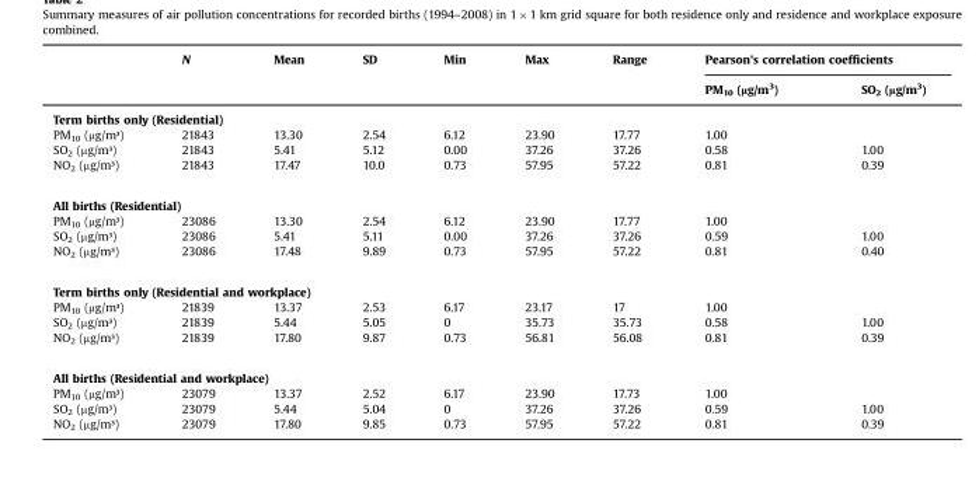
<table><thead><tr><td rowspan="2"></td><td rowspan="2">N</td><td rowspan="2">Mean</td><td rowspan="2">SD</td><td rowspan="2">Min</td><td rowspan="2">Max</td><td rowspan="2">Range</td><td colspan="2">Pearson&#x27;s correlation coefficients</td></tr><tr><td>PM<sub>10</sub> (µg/m<sup>3</sup>)</td><td>SO<sub>2</sub> (µg/m<sup>3</sup>)</td></tr></thead><tbody><tr><td colspan="9">Term births only (Residential)</td></tr><tr><td>PM<sub>10</sub> (µg/m³)</td><td>21843</td><td>13.30</td><td>2.54</td><td>6.12</td><td>23.90</td><td>17.77</td><td>1.00</td><td></td></tr><tr><td>SO<sub>2</sub> (µg/m³)</td><td>21843</td><td>5.41</td><td>5.12</td><td>0.00</td><td>37.26</td><td>37.26</td><td>0.58</td><td>1.00</td></tr><tr><td>NO<sub>2</sub> (µg/m³)</td><td>21843</td><td>17.47</td><td>10.0</td><td>0.73</td><td>57.95</td><td>57.22</td><td>0.81</td><td>0.39</td></tr><tr><td colspan="9">All births (Residential)</td></tr><tr><td>PM<sub>10</sub> (µg/m³)</td><td>23086</td><td>13.30</td><td>2.54</td><td>6.12</td><td>23.90</td><td>17.77</td><td>1.00</td><td></td></tr><tr><td>SO<sub>2</sub> (µg/m³)</td><td>23086</td><td>5.41</td><td>5.11</td><td>0.00</td><td>37.26</td><td>37.26</td><td>0.59</td><td>1.00</td></tr><tr><td>NO<sub>2</sub> (µg/m³)</td><td>23086</td><td>17.48</td><td>9.89</td><td>0.73</td><td>57.95</td><td>57.22</td><td>0.81</td><td>0.40</td></tr><tr><td colspan="9">Term births only (Residential and workplace)</td></tr><tr><td>PM<sub>10</sub> (µg/m³)</td><td>21839</td><td>13.37</td><td>2.53</td><td>6.17</td><td>23.17</td><td>17</td><td>1.00</td><td></td></tr><tr><td>SO<sub>2</sub> (µg/m³)</td><td>21839</td><td>5.44</td><td>5.05</td><td>0</td><td>35.73</td><td>35.73</td><td>0.58</td><td>1.00</td></tr><tr><td>NO<sub>2</sub> (µg/m³)</td><td>21839</td><td>17.80</td><td>9.87</td><td>0.73</td><td>56.81</td><td>56.08</td><td>0.81</td><td>0.39</td></tr><tr><td colspan="9">All births (Residential and workplace)</td></tr><tr><td>PM<sub>10</sub> (µg/m³)</td><td>23079</td><td>13.37</td><td>2.52</td><td>6.17</td><td>23.90</td><td>17.73</td><td>1.00</td><td></td></tr><tr><td>SO<sub>2</sub> (µg/m³)</td><td>23079</td><td>5.44</td><td>5.04</td><td>0</td><td>37.26</td><td>37.26</td><td>0.59</td><td>1.00</td></tr><tr><td>NO<sub>2</sub> (µg/m³)</td><td>23079</td><td>17.80</td><td>9.85</td><td>0.73</td><td>57.95</td><td>57.22</td><td>0.81</td><td>0.39</td></tr></tbody></table>